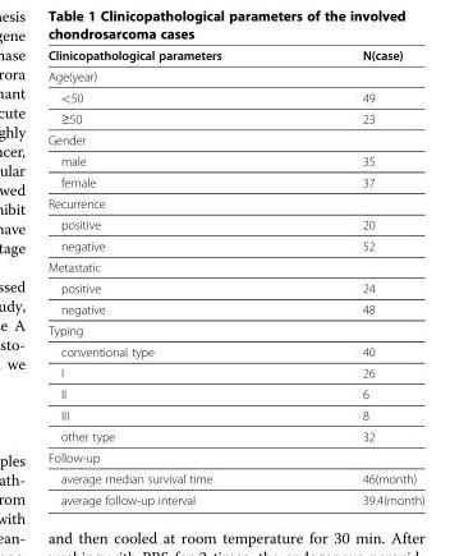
<table><thead><tr><td>Clinicopathological parameters</td><td>N(case)</td></tr></thead><tbody><tr><td colspan="2">Age(year)</td></tr><tr><td>&lt;50</td><td>49</td></tr><tr><td>≥50</td><td>23</td></tr><tr><td colspan="2">Gender</td></tr><tr><td>male</td><td>35</td></tr><tr><td>female</td><td>37</td></tr><tr><td colspan="2">Recurrence</td></tr><tr><td>positive</td><td>20</td></tr><tr><td>negative</td><td>52</td></tr><tr><td colspan="2">Metastatic</td></tr><tr><td>positive</td><td>24</td></tr><tr><td>negative</td><td>48</td></tr><tr><td colspan="2">Typing</td></tr><tr><td>conventional type</td><td>40</td></tr><tr><td>I</td><td>26</td></tr><tr><td>II</td><td>6</td></tr><tr><td>III</td><td>8</td></tr><tr><td>other type</td><td>32</td></tr><tr><td colspan="2">Follow-up</td></tr><tr><td>average median survival time</td><td>46(month)</td></tr><tr><td>average follow-up interval</td><td>39.4(month)</td></tr></tbody></table>